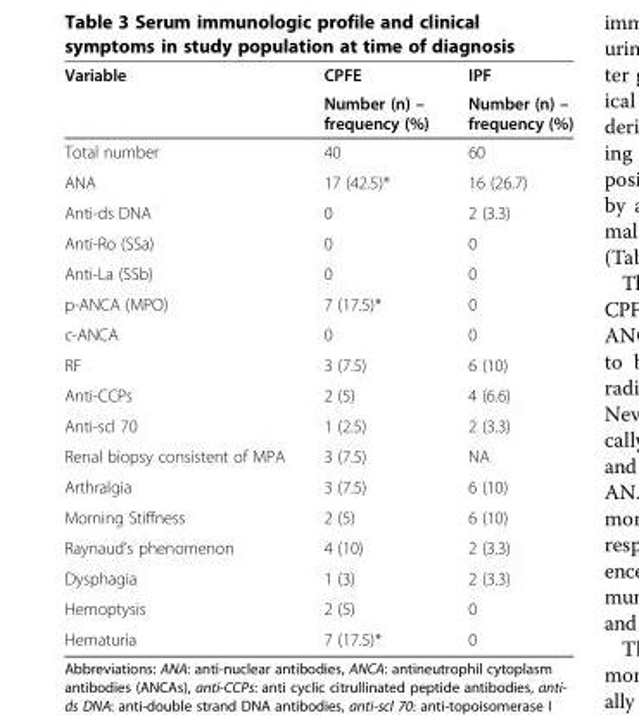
<table><thead><tr><td rowspan="2">Variable</td><td rowspan="2">CPFE Number (n) – frequency (%)</td><td rowspan="2">IPF Number (n) – frequency (%)</td></tr><tr></tr></thead><tbody><tr><td>Total number</td><td>40</td><td>60</td></tr><tr><td>ANA</td><td>17 (42.5)*</td><td>16 (26.7)</td></tr><tr><td>Anti-ds DNA</td><td>0</td><td>2 (3.3)</td></tr><tr><td>Anti-Ro (SSa)</td><td>0</td><td>0</td></tr><tr><td>Anti-La (SSb)</td><td>0</td><td>0</td></tr><tr><td>p-ANCA (MPO)</td><td>7 (17.5)*</td><td>0</td></tr><tr><td>c-ANCA</td><td>0</td><td>0</td></tr><tr><td>RF</td><td>3 (7.5)</td><td>6 (10)</td></tr><tr><td>Anti-CCPs</td><td>2 (5)</td><td>4 (6.6)</td></tr><tr><td>Anti-scl 70</td><td>1 (2.5)</td><td>2 (3.3)</td></tr><tr><td>Renal biopsy consistent of MPA</td><td>3 (7.5)</td><td>NA</td></tr><tr><td>Arthralgia</td><td>3 (7.5)</td><td>6 (10)</td></tr><tr><td>Morning Stiffness</td><td>2 (5)</td><td>6 (10)</td></tr><tr><td>Raynaud’s phenomenon</td><td>4 (10)</td><td>2 (3.3)</td></tr><tr><td>Dysphagia</td><td>1 (3)</td><td>2 (3.3)</td></tr><tr><td>Hemoptysis</td><td>2 (5)</td><td>0</td></tr><tr><td>Hematuria</td><td>7 (17.5)*</td><td>0</td></tr></tbody></table>